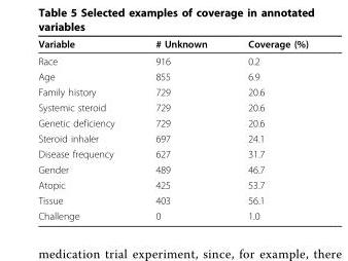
<table><thead><tr><td>Variable</td><td># Unknown</td><td>Coverage (%)</td></tr></thead><tbody><tr><td>Race</td><td>916</td><td>0.2</td></tr><tr><td>Age</td><td>855</td><td>6.9</td></tr><tr><td>Family history</td><td>729</td><td>20.6</td></tr><tr><td>Systemic steroid</td><td>729</td><td>20.6</td></tr><tr><td>Genetic deficiency</td><td>729</td><td>20.6</td></tr><tr><td>Steroid inhaler</td><td>697</td><td>24.1</td></tr><tr><td>Disease frequency</td><td>627</td><td>31.7</td></tr><tr><td>Gender</td><td>489</td><td>46.7</td></tr><tr><td>Atopic</td><td>425</td><td>53.7</td></tr><tr><td>Tissue</td><td>403</td><td>56.1</td></tr><tr><td>Challenge</td><td>0</td><td>1.0</td></tr></tbody></table>